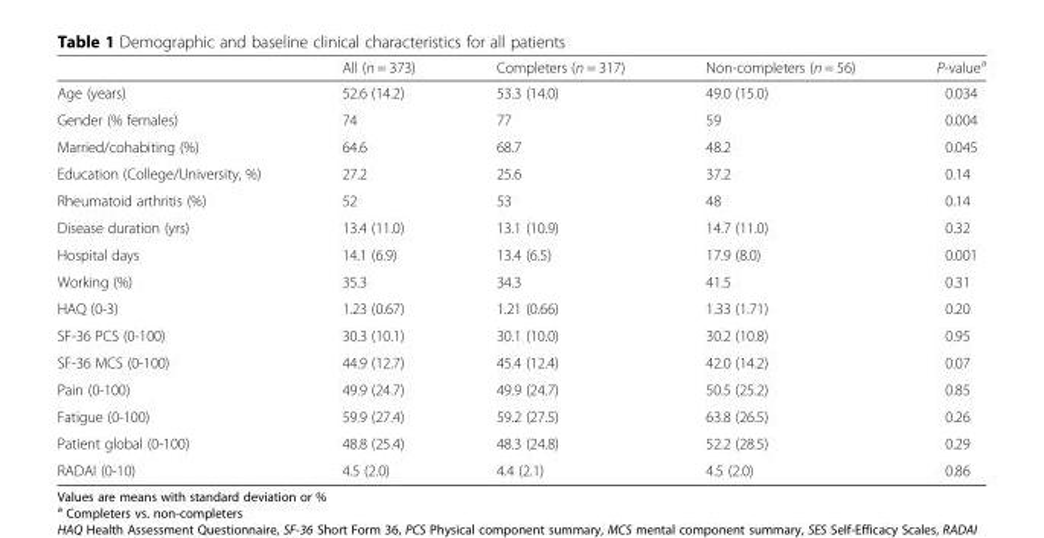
<table><thead><tr><td></td><td>All (n = 373)</td><td>Completers (n = 317)</td><td>Non-completers (n = 56)</td><td>P-value<sup>a</sup></td></tr></thead><tbody><tr><td>Age (years)</td><td>52.6 (14.2)</td><td>53.3 (14.0)</td><td>49.0 (15.0)</td><td>0.034</td></tr><tr><td>Gender (% females)</td><td>74</td><td>77</td><td>59</td><td>0.004</td></tr><tr><td>Married/cohabiting (%)</td><td>64.6</td><td>68.7</td><td>48.2</td><td>0.045</td></tr><tr><td>Education (College/University, %)</td><td>27.2</td><td>25.6</td><td>37.2</td><td>0.14</td></tr><tr><td>Rheumatoid arthritis (%)</td><td>52</td><td>53</td><td>48</td><td>0.14</td></tr><tr><td>Disease duration (yrs)</td><td>13.4 (11.0)</td><td>13.1 (10.9)</td><td>14.7 (11.0)</td><td>0.32</td></tr><tr><td>Hospital days</td><td>14.1 (6.9)</td><td>13.4 (6.5)</td><td>17.9 (8.0)</td><td>0.001</td></tr><tr><td>Working (%)</td><td>35.3</td><td>34.3</td><td>41.5</td><td>0.31</td></tr><tr><td>HAQ (0-3)</td><td>1.23 (0.67)</td><td>1.21 (0.66)</td><td>1.33 (1.71)</td><td>0.20</td></tr><tr><td>SF-36 PCS (0-100)</td><td>30.3 (10.1)</td><td>30.1 (10.0)</td><td>30.2 (10.8)</td><td>0.95</td></tr><tr><td>SF-36 MCS (0-100)</td><td>44.9 (12.7)</td><td>45.4 (12.4)</td><td>42.0 (14.2)</td><td>0.07</td></tr><tr><td>Pain (0-100)</td><td>49.9 (24.7)</td><td>49.9 (24.7)</td><td>50.5 (25.2)</td><td>0.85</td></tr><tr><td>Fatigue (0-100)</td><td>59.9 (27.4)</td><td>59.2 (27.5)</td><td>63.8 (26.5)</td><td>0.26</td></tr><tr><td>Patient global (0-100)</td><td>48.8 (25.4)</td><td>48.3 (24.8)</td><td>52.2 (28.5)</td><td>0.29</td></tr><tr><td>RADAI (0-10)</td><td>4.5 (2.0)</td><td>4.4 (2.1)</td><td>4.5 (2.0)</td><td>0.86</td></tr></tbody></table>